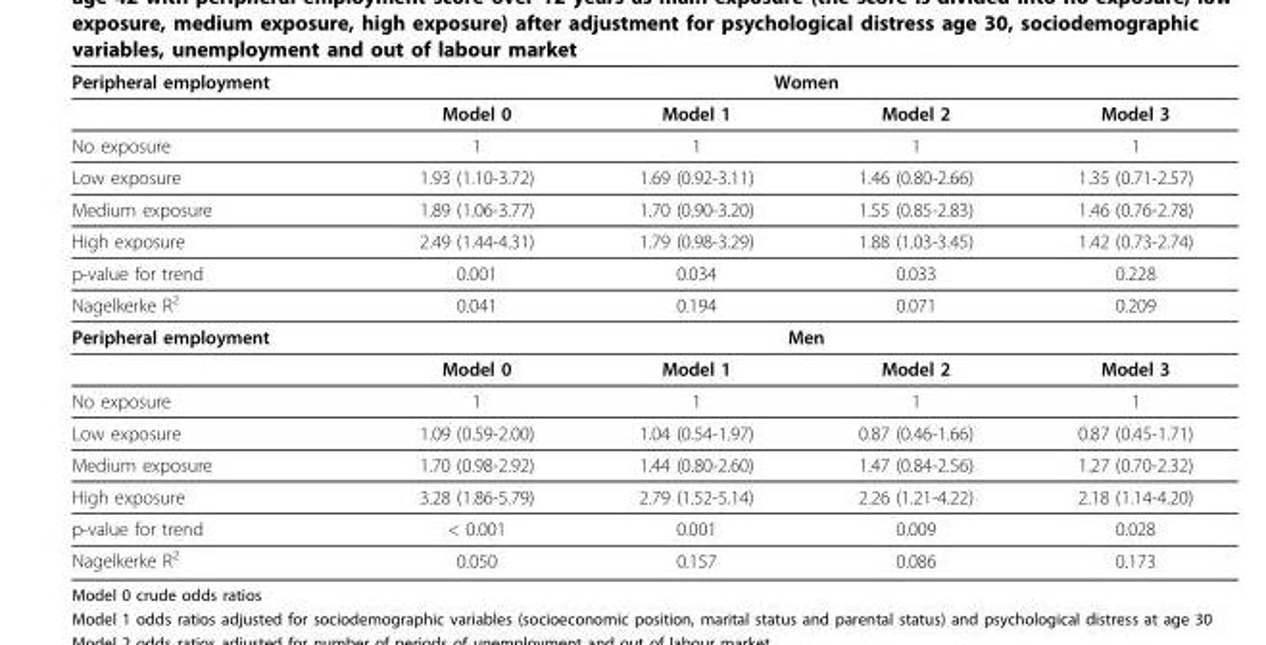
<table><thead><tr><td rowspan="2">Peripheral employment</td><td colspan="4">Women</td></tr><tr><td>Model 0</td><td>Model 1</td><td>Model 2</td><td>Model 3</td></tr></thead><tbody><tr><td>No exposure</td><td>1</td><td>1</td><td>1</td><td>1</td></tr><tr><td>Low exposure</td><td>1.93 (1.10-3.72)</td><td>1.69 (0.92-3.11)</td><td>1.46 (0.80-2.66)</td><td>1.35 (0.71-2.57)</td></tr><tr><td>Medium exposure</td><td>1.89 (1.06-3.77)</td><td>1.70 (0.90-3.20)</td><td>1.55 (0.85-2.83)</td><td>1.46 (0.76-2.78)</td></tr><tr><td>High exposure</td><td>2.49 (1.44-4.31)</td><td>1.79 (0.98-3.29)</td><td>1.88 (1.03-3.45)</td><td>1.42 (0.73-2.74)</td></tr><tr><td>p-value for trend</td><td>0.001</td><td>0.034</td><td>0.033</td><td>0.228</td></tr><tr><td>Nagelkerke R<sup>2</sup></td><td>0.041</td><td>0.194</td><td>0.071</td><td>0.209</td></tr><tr><td rowspan="2">Peripheral employment</td><td colspan="4">Men</td></tr><tr><td>Model 0</td><td>Model 1</td><td>Model 2</td><td>Model 3</td></tr><tr><td>No exposure</td><td>1</td><td>1</td><td>1</td><td>1</td></tr><tr><td>Low exposure</td><td>1.09 (0.59-2.00)</td><td>1.04 (0.54-1.97)</td><td>0.87 (0.46-1.66)</td><td>0.87 (0.45-1.71)</td></tr><tr><td>Medium exposure</td><td>1.70 (0.98-2.92)</td><td>1.44 (0.80-2.60)</td><td>1.47 (0.84-2.56)</td><td>1.27 (0.70-2.32)</td></tr><tr><td>High exposure</td><td>3.28 (1.86-5.79)</td><td>2.79 (1.52-5.14)</td><td>2.26 (1.21-4.22)</td><td>2.18 (1.14-4.20)</td></tr><tr><td>p-value for trend</td><td>&lt; 0.001</td><td>0.001</td><td>0.009</td><td>0.028</td></tr><tr><td>Nagelkerke R<sup>2</sup></td><td>0.050</td><td>0.157</td><td>0.086</td><td>0.173</td></tr></tbody></table>